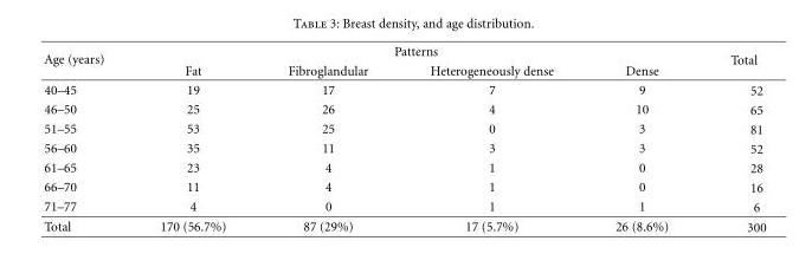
<table><thead><tr><td rowspan="2">Age (years)</td><td colspan="4">Patterns</td><td rowspan="2">Total</td></tr><tr><td>Fat</td><td>Fibroglandular</td><td>Heterogeneously dense</td><td>Dense</td></tr></thead><tbody><tr><td>40–45</td><td>19</td><td>17</td><td>7</td><td>9</td><td>52</td></tr><tr><td>46–50</td><td>25</td><td>26</td><td>4</td><td>10</td><td>65</td></tr><tr><td>51–55</td><td>53</td><td>25</td><td>0</td><td>3</td><td>81</td></tr><tr><td>56–60</td><td>35</td><td>11</td><td>3</td><td>3</td><td>52</td></tr><tr><td>61–65</td><td>23</td><td>4</td><td>1</td><td>0</td><td>28</td></tr><tr><td>66–70</td><td>11</td><td>4</td><td>1</td><td>0</td><td>16</td></tr><tr><td>71–77</td><td>4</td><td>0</td><td>1</td><td>1</td><td>6</td></tr><tr><td>Total</td><td>170 (56.7%)</td><td>87 (29%)</td><td>17 (5.7%)</td><td>26 (8.6%)</td><td>300</td></tr></tbody></table>